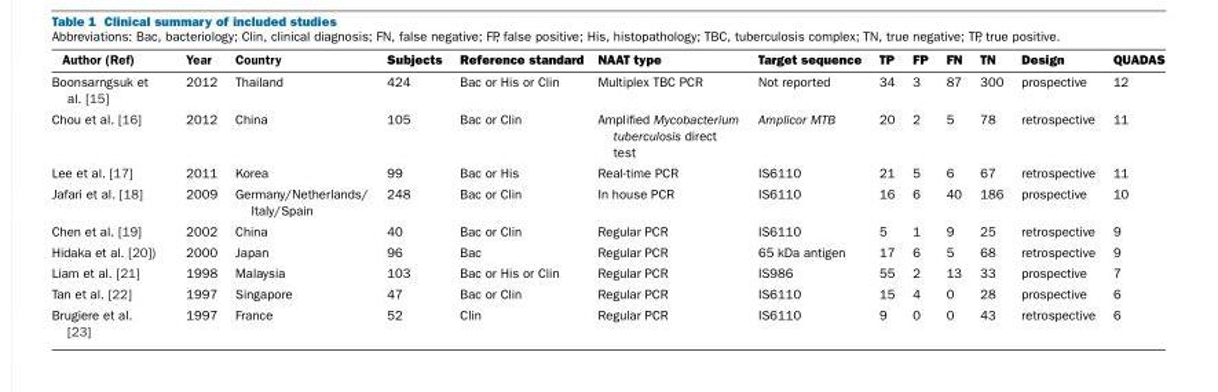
<table><thead><tr><td>Author (Ref)</td><td>Year</td><td>Country</td><td>Subjects</td><td>Reference standard</td><td>NAAT type</td><td>Target sequence</td><td>TP</td><td>FP</td><td>FN</td><td>TN</td><td>Design</td><td>QUADAS</td></tr></thead><tbody><tr><td>Boonsarngsuk et al. [15]</td><td>2012</td><td>Thailand</td><td>424</td><td>Bac or His or Clin</td><td>Multiplex TBC PCR</td><td>Not reported</td><td>34</td><td>3</td><td>87</td><td>300</td><td>prospective</td><td>12</td></tr><tr><td>Chou et al. [16]</td><td>2012</td><td>China</td><td>105</td><td>Bac or Clin</td><td>Amplified Mycobacterium tuberculosis direct test</td><td>Amplicor MTB</td><td>20</td><td>2</td><td>5</td><td>78</td><td>retrospective</td><td>11</td></tr><tr><td>Lee et al. [17]</td><td>2011</td><td>Korea</td><td>99</td><td>Bac or His</td><td>Real-time PCR</td><td>IS6110</td><td>21</td><td>5</td><td>6</td><td>67</td><td>retrospective</td><td>11</td></tr><tr><td>Jafari et al. [18]</td><td>2009</td><td>Germany/Netherlands/ Italy/Spain</td><td>248</td><td>Bac or Clin</td><td>In house PCR</td><td>IS6110</td><td>16</td><td>6</td><td>40</td><td>186</td><td>prospective</td><td>10</td></tr><tr><td>Chen et al. [19]</td><td>2002</td><td>China</td><td>40</td><td>Bac or Clin</td><td>Regular PCR</td><td>IS6110</td><td>5</td><td>1</td><td>9</td><td>25</td><td>retrospective</td><td>9</td></tr><tr><td>Hidaka et al. [20])</td><td>2000</td><td>Japan</td><td>96</td><td>Bac</td><td>Regular PCR</td><td>65 kDa antigen</td><td>17</td><td>6</td><td>5</td><td>68</td><td>retrospective</td><td>9</td></tr><tr><td>Liam et al. [21]</td><td>1998</td><td>Malaysia</td><td>103</td><td>Bac or His or Clin</td><td>Regular PCR</td><td>IS986</td><td>55</td><td>2</td><td>13</td><td>33</td><td>prospective</td><td>7</td></tr><tr><td>Tan et al. [22]</td><td>1997</td><td>Singapore</td><td>47</td><td>Bac or Clin</td><td>Regular PCR</td><td>IS6110</td><td>15</td><td>4</td><td>0</td><td>28</td><td>prospective</td><td>6</td></tr><tr><td>Brugiere et al. [23]</td><td>1997</td><td>France</td><td>52</td><td>Clin</td><td>Regular PCR</td><td>IS6110</td><td>9</td><td>0</td><td>0</td><td>43</td><td>retrospective</td><td>6</td></tr></tbody></table>